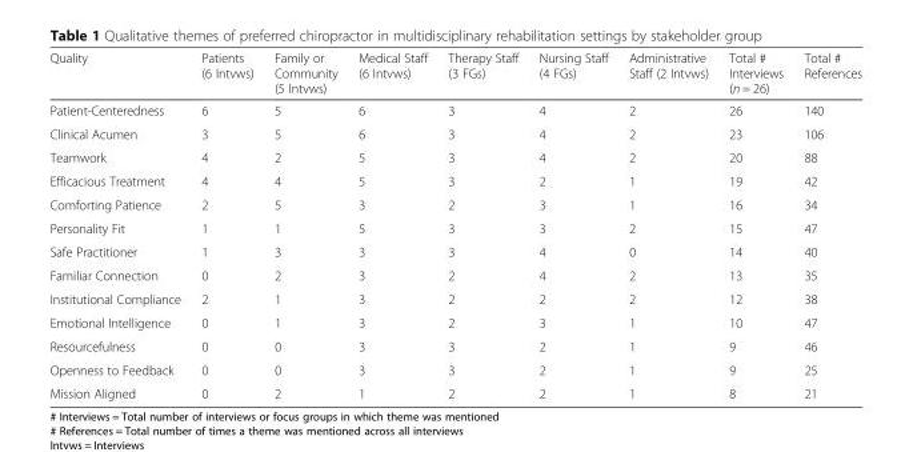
<table><thead><tr><td>Quality</td><td>Patients (6 Intvws)</td><td>Family or Community (5 Intvws)</td><td>Medical Staff (6 Intvws)</td><td>Therapy Staff (3 FGs)</td><td>Nursing Staff (4 FGs)</td><td>Administrative Staff (2 Intvws)</td><td>Total # Interviews (n = 26)</td><td>Total # References</td></tr></thead><tbody><tr><td>Patient-Centeredness</td><td>6</td><td>5</td><td>6</td><td>3</td><td>4</td><td>2</td><td>26</td><td>140</td></tr><tr><td>Clinical Acumen</td><td>3</td><td>5</td><td>6</td><td>3</td><td>4</td><td>2</td><td>23</td><td>106</td></tr><tr><td>Teamwork</td><td>4</td><td>2</td><td>5</td><td>3</td><td>4</td><td>2</td><td>20</td><td>88</td></tr><tr><td>Efficacious Treatment</td><td>4</td><td>4</td><td>5</td><td>3</td><td>2</td><td>1</td><td>19</td><td>42</td></tr><tr><td>Comforting Patience</td><td>2</td><td>5</td><td>3</td><td>2</td><td>3</td><td>1</td><td>16</td><td>34</td></tr><tr><td>Personality Fit</td><td>1</td><td>1</td><td>5</td><td>3</td><td>3</td><td>2</td><td>15</td><td>47</td></tr><tr><td>Safe Practitioner</td><td>1</td><td>3</td><td>3</td><td>3</td><td>4</td><td>0</td><td>14</td><td>40</td></tr><tr><td>Familiar Connection</td><td>0</td><td>2</td><td>3</td><td>2</td><td>4</td><td>2</td><td>13</td><td>35</td></tr><tr><td>Institutional Compliance</td><td>2</td><td>1</td><td>3</td><td>2</td><td>2</td><td>2</td><td>12</td><td>38</td></tr><tr><td>Emotional Intelligence</td><td>0</td><td>1</td><td>3</td><td>2</td><td>3</td><td>1</td><td>10</td><td>47</td></tr><tr><td>Resourcefulness</td><td>0</td><td>0</td><td>3</td><td>3</td><td>2</td><td>1</td><td>9</td><td>46</td></tr><tr><td>Openness to Feedback</td><td>0</td><td>0</td><td>3</td><td>3</td><td>2</td><td>1</td><td>9</td><td>25</td></tr><tr><td>Mission Aligned</td><td>0</td><td>2</td><td>1</td><td>2</td><td>2</td><td>1</td><td>8</td><td>21</td></tr></tbody></table>